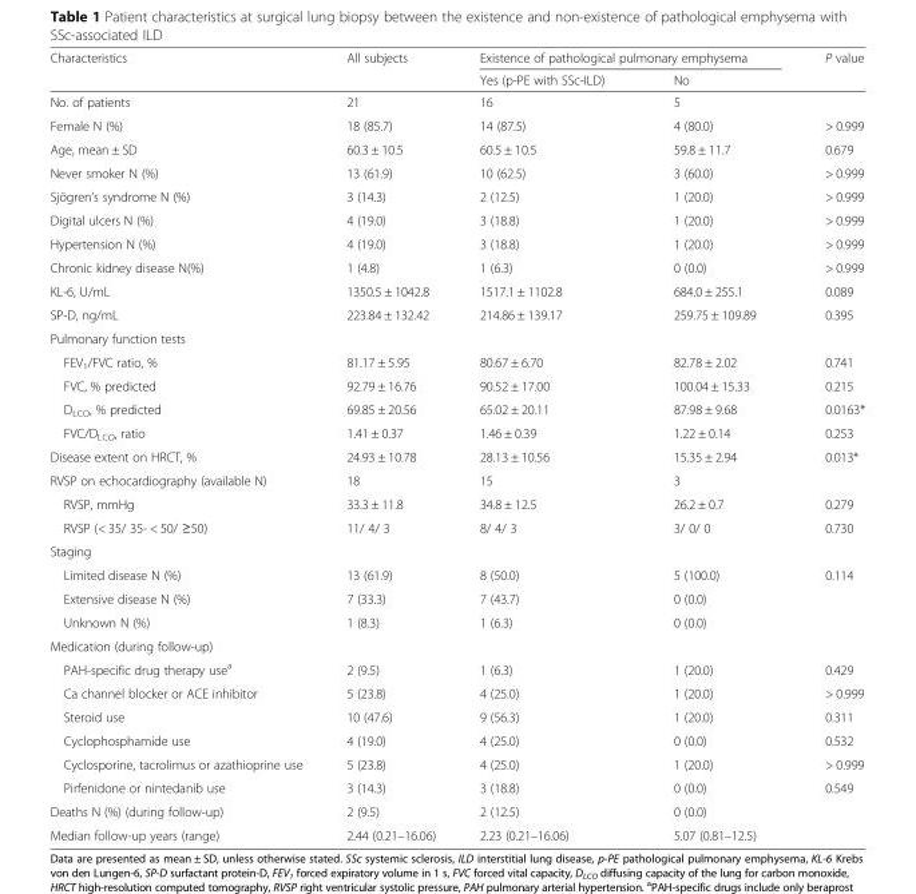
<table><thead><tr><td rowspan="2">Characteristics</td><td rowspan="2">All subjects</td><td colspan="2">Existence of pathological pulmonary emphysema</td><td rowspan="2">P value</td></tr><tr><td>Yes (p-PE with SSc-ILD)</td><td>No</td></tr></thead><tbody><tr><td>No. of patients</td><td>21</td><td>16</td><td>5</td><td></td></tr><tr><td>Female N (%)</td><td>18 (85.7)</td><td>14 (87.5)</td><td>4 (80.0)</td><td>&gt; 0.999</td></tr><tr><td>Age, mean ± SD</td><td>60.3 ± 10.5</td><td>60.5 ± 10.5</td><td>59.8 ± 11.7</td><td>0.679</td></tr><tr><td>Never smoker N (%)</td><td>13 (61.9)</td><td>10 (62.5)</td><td>3 (60.0)</td><td>&gt; 0.999</td></tr><tr><td>Sjögren’s syndrome N (%)</td><td>3 (14.3)</td><td>2 (12.5)</td><td>1 (20.0)</td><td>&gt; 0.999</td></tr><tr><td>Digital ulcers N (%)</td><td>4 (19.0)</td><td>3 (18.8)</td><td>1 (20.0)</td><td>&gt; 0.999</td></tr><tr><td>Hypertension N (%)</td><td>4 (19.0)</td><td>3 (18.8)</td><td>1 (20.0)</td><td>&gt; 0.999</td></tr><tr><td>Chronic kidney disease N(%)</td><td>1 (4.8)</td><td>1 (6.3)</td><td>0 (0.0)</td><td>&gt; 0.999</td></tr><tr><td>KL-6, U/mL</td><td>1350.5 ± 1042.8</td><td>1517.1 ± 1102.8</td><td>684.0 ± 255.1</td><td>0.089</td></tr><tr><td>SP-D, ng/mL</td><td>223.84 ± 132.42</td><td>214.86 ± 139.17</td><td>259.75 ± 109.89</td><td>0.395</td></tr><tr><td colspan="5">Pulmonary function tests</td></tr><tr><td>FEV<sub>1</sub>/FVC ratio, %</td><td>81.17 ± 5.95</td><td>80.67 ± 6.70</td><td>82.78 ± 2.02</td><td>0.741</td></tr><tr><td>FVC, % predicted</td><td>92.79 ± 16.76</td><td>90.52 ± 17.00</td><td>100.04 ± 15.33</td><td>0.215</td></tr><tr><td>D<sub>LCO</sub>, % predicted</td><td>69.85 ± 20.56</td><td>65.02 ± 20.11</td><td>87.98 ± 9.68</td><td>0.0163*</td></tr><tr><td>FVC/D<sub>LCO</sub>, ratio</td><td>1.41 ± 0.37</td><td>1.46 ± 0.39</td><td>1.22 ± 0.14</td><td>0.253</td></tr><tr><td>Disease extent on HRCT, %</td><td>24.93 ± 10.78</td><td>28.13 ± 10.56</td><td>15.35 ± 2.94</td><td>0.013*</td></tr><tr><td>RVSP on echocardiography (available N)</td><td>18</td><td>15</td><td>3</td><td></td></tr><tr><td>RVSP, mmHg</td><td>33.3 ± 11.8</td><td>34.8 ± 12.5</td><td>26.2 ± 0.7</td><td>0.279</td></tr><tr><td>RVSP (&lt; 35/ 35- &lt; 50/ ≥50)</td><td>11/ 4/ 3</td><td>8/ 4/ 3</td><td>3/ 0/ 0</td><td>0.730</td></tr><tr><td colspan="5">Staging</td></tr><tr><td>Limited disease N (%)</td><td>13 (61.9)</td><td>8 (50.0)</td><td>5 (100.0)</td><td rowspan="2">0.114</td></tr><tr><td>Extensive disease N (%)</td><td>7 (33.3)</td><td>7 (43.7)</td><td>0 (0.0)</td></tr><tr><td>Unknown N (%)</td><td>1 (8.3)</td><td>1 (6.3)</td><td>0 (0.0)</td><td></td></tr><tr><td colspan="5">Medication (during follow-up)</td></tr><tr><td>PAH-specific drug therapy use<sup>a</sup></td><td>2 (9.5)</td><td>1 (6.3)</td><td>1 (20.0)</td><td>0.429</td></tr><tr><td>Ca channel blocker or ACE inhibitor</td><td>5 (23.8)</td><td>4 (25.0)</td><td>1 (20.0)</td><td>&gt; 0.999</td></tr><tr><td>Steroid use</td><td>10 (47.6)</td><td>9 (56.3)</td><td>1 (20.0)</td><td>0.311</td></tr><tr><td>Cyclophosphamide use</td><td>4 (19.0)</td><td>4 (25.0)</td><td>0 (0.0)</td><td>0.532</td></tr><tr><td>Cyclosporine, tacrolimus or azathioprine use</td><td>5 (23.8)</td><td>4 (25.0)</td><td>1 (20.0)</td><td>&gt; 0.999</td></tr><tr><td>Pirfenidone or nintedanib use</td><td>3 (14.3)</td><td>3 (18.8)</td><td>0 (0.0)</td><td>0.549</td></tr><tr><td>Deaths N (%) (during follow-up)</td><td>2 (9.5)</td><td>2 (12.5)</td><td>0 (0.0)</td><td></td></tr><tr><td>Median follow-up years (range)</td><td>2.44 (0.21–16.06)</td><td>2.23 (0.21–16.06)</td><td>5.07 (0.81–12.5)</td><td></td></tr></tbody></table>